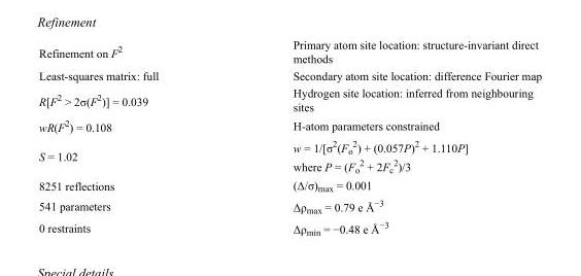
<table><tbody><tr><td>Refinement on F<sup>2</sup></td><td>Primary atom site location: structure-invariant direct methods</td></tr><tr><td>Least-squares matrix: full</td><td>Secondary atom site location: difference Fourier map</td></tr><tr><td>R[F<sup>2</sup> &gt; 2σ(F<sup>2</sup>)] = 0.039</td><td>Hydrogen site location: inferred from neighbouring sites</td></tr><tr><td>wR(F<sup>2</sup>) = 0.108</td><td>H-atom parameters constrained</td></tr><tr><td>S = 1.02</td><td>w = 1/[σ<sup>2</sup>(F<sub>o</sub> <sup>2</sup>) + (0.057P)<sup>2</sup> + 1.110P] where P = (F<sub>o</sub> <sup>2</sup> + 2F<sub>c</sub> <sup>2</sup>)/3</td></tr><tr><td>8251 reflections</td><td>(Δ/σ)<sub>max</sub> = 0.001</td></tr><tr><td>541 parameters</td><td>Δρ<sub>max</sub> = 0.79 e Å<sup>−3</sup></td></tr><tr><td>0 restraints</td><td>Δρ<sub>min</sub> = −0.48 e Å<sup>−3</sup></td></tr></tbody></table>